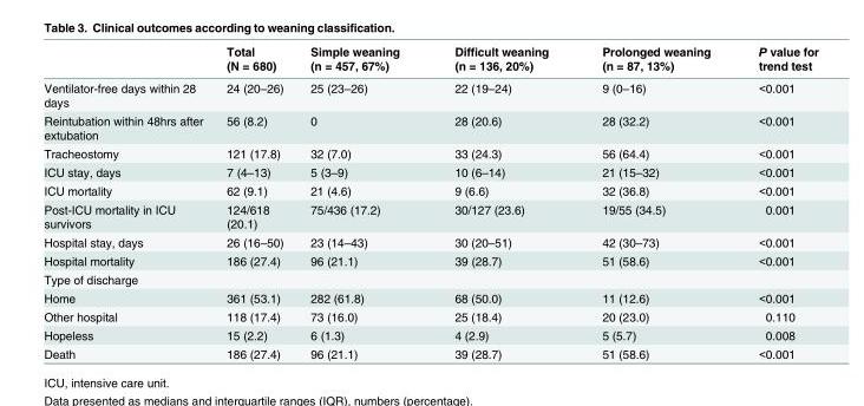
<table><thead><tr><td></td><td>Total (N = 680)</td><td>Simple weaning (n = 457, 67%)</td><td>Difficult weaning (n = 136, 20%)</td><td>Prolonged weaning (n = 87, 13%)</td><td>P value for trend test</td></tr></thead><tbody><tr><td>Ventilator-free days within 28 days</td><td>24 (20–26)</td><td>25 (23–26)</td><td>22 (19–24)</td><td>9 (0–16)</td><td>&lt;0.001</td></tr><tr><td>Reintubation within 48hrs after extubation</td><td>56 (8.2)</td><td>0</td><td>28 (20.6)</td><td>28 (32.2)</td><td>&lt;0.001</td></tr><tr><td>Tracheostomy</td><td>121 (17.8)</td><td>32 (7.0)</td><td>33 (24.3)</td><td>56 (64.4)</td><td>&lt;0.001</td></tr><tr><td>ICU stay, days</td><td>7 (4–13)</td><td>5 (3–9)</td><td>10 (6–14)</td><td>21 (15–32)</td><td>&lt;0.001</td></tr><tr><td>ICU mortality</td><td>62 (9.1)</td><td>21 (4.6)</td><td>9 (6.6)</td><td>32 (36.8)</td><td>&lt;0.001</td></tr><tr><td>Post-ICU mortality in ICU survivors</td><td>124/618 (20.1)</td><td>75/436 (17.2)</td><td>30/127 (23.6)</td><td>19/55 (34.5)</td><td>0.001</td></tr><tr><td>Hospital stay, days</td><td>26 (16–50)</td><td>23 (14–43)</td><td>30 (20–51)</td><td>42 (30–73)</td><td>&lt;0.001</td></tr><tr><td>Hospital mortality</td><td>186 (27.4)</td><td>96 (21.1)</td><td>39 (28.7)</td><td>51 (58.6)</td><td>&lt;0.001</td></tr><tr><td colspan="6">Type of discharge</td></tr><tr><td>Home</td><td>361 (53.1)</td><td>282 (61.8)</td><td>68 (50.0)</td><td>11 (12.6)</td><td>&lt;0.001</td></tr><tr><td>Other hospital</td><td>118 (17.4)</td><td>73 (16.0)</td><td>25 (18.4)</td><td>20 (23.0)</td><td>0.110</td></tr><tr><td>Hopeless</td><td>15 (2.2)</td><td>6 (1.3)</td><td>4 (2.9)</td><td>5 (5.7)</td><td>0.008</td></tr><tr><td>Death</td><td>186 (27.4)</td><td>96 (21.1)</td><td>39 (28.7)</td><td>51 (58.6)</td><td>&lt;0.001</td></tr></tbody></table>